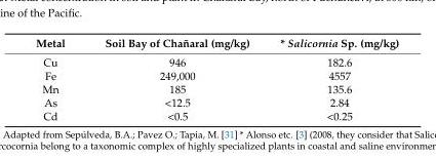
<table><thead><tr><td>Metal</td><td>Soil Bay of Chañaral (mg/kg)</td><td>* Salicornia Sp. (mg/kg)</td></tr></thead><tbody><tr><td>Cu</td><td>946</td><td>182.6</td></tr><tr><td>Fe</td><td>249,000</td><td>4557</td></tr><tr><td>Mn</td><td>185</td><td>135.6</td></tr><tr><td>As</td><td>&lt;12.5</td><td>2.84</td></tr><tr><td>Cd</td><td>&lt;0.5</td><td>&lt;0.25</td></tr></tbody></table>